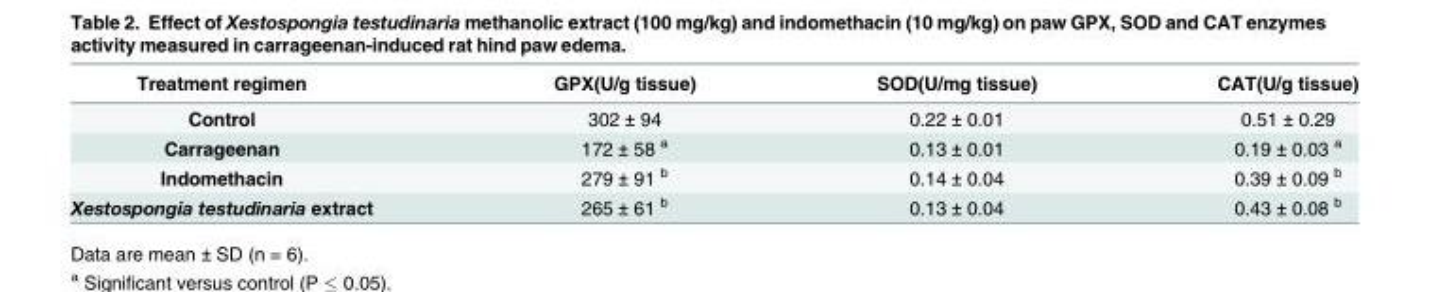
<table><thead><tr><td>Treatment regimen</td><td>GPX(U/g tissue)</td><td>SOD(U/mg tissue)</td><td>CAT(U/g tissue)</td></tr></thead><tbody><tr><td>Control</td><td>302 ± 94</td><td>0.22 ± 0.01</td><td>0.51 ± 0.29</td></tr><tr><td>Carrageenan</td><td>172 ± 58 <sup>a</sup></td><td>0.13 ± 0.01</td><td>0.19 ± 0.03 <sup>a</sup></td></tr><tr><td>Indomethacin</td><td>279 ± 91 <sup>b</sup></td><td>0.14 ± 0.04</td><td>0.39 ± 0.09 <sup>b</sup></td></tr><tr><td>Xestospongia testudinaria extract</td><td>265 ± 61 <sup>b</sup></td><td>0.13 ± 0.04</td><td>0.43 ± 0.08 <sup>b</sup></td></tr></tbody></table>